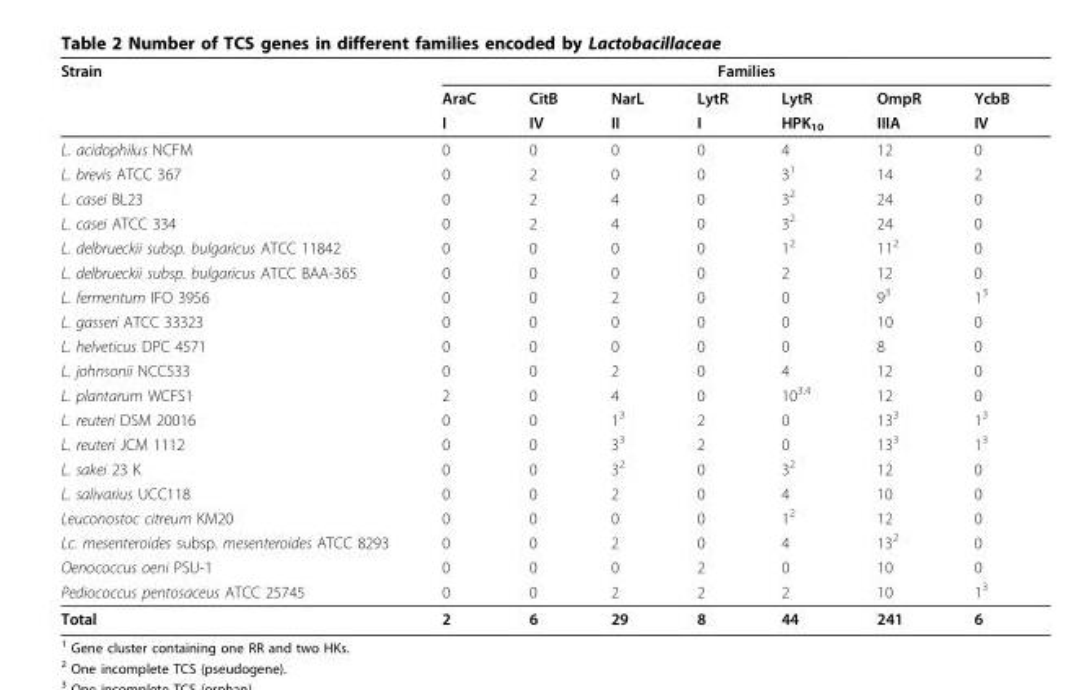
<table><thead><tr><td rowspan="3">Strain</td><td colspan="7">Families</td></tr><tr><td rowspan="2">AraC I</td><td rowspan="2">CitB IV</td><td rowspan="2">NarL II</td><td rowspan="2">LytR I</td><td rowspan="2">LytR HPK<sub>10</sub></td><td rowspan="2">OmpR IIIA</td><td rowspan="2">YcbB IV</td></tr><tr></tr></thead><tbody><tr><td>L. acidophilus NCFM</td><td>0</td><td>0</td><td>0</td><td>0</td><td>4</td><td>12</td><td>0</td></tr><tr><td>L. brevis ATCC 367</td><td>0</td><td>2</td><td>0</td><td>0</td><td>3<sup>1</sup></td><td>14</td><td>2</td></tr><tr><td>L. casei BL23</td><td>0</td><td>2</td><td>4</td><td>0</td><td>3<sup>2</sup></td><td>24</td><td>0</td></tr><tr><td>L. casei ATCC 334</td><td>0</td><td>2</td><td>4</td><td>0</td><td>3<sup>2</sup></td><td>24</td><td>0</td></tr><tr><td>L. delbrueckii subsp. bulgaricus ATCC 11842</td><td>0</td><td>0</td><td>0</td><td>0</td><td>1<sup>2</sup></td><td>11<sup>2</sup></td><td>0</td></tr><tr><td>L. delbrueckii subsp. bulgaricus ATCC BAA-365</td><td>0</td><td>0</td><td>0</td><td>0</td><td>2</td><td>12</td><td>0</td></tr><tr><td>L. fermentum IFO 3956</td><td>0</td><td>0</td><td>2</td><td>0</td><td>0</td><td>9<sup>3</sup></td><td>1<sup>3</sup></td></tr><tr><td>L. gasseri ATCC 33323</td><td>0</td><td>0</td><td>0</td><td>0</td><td>0</td><td>10</td><td>0</td></tr><tr><td>L. helveticus DPC 4571</td><td>0</td><td>0</td><td>0</td><td>0</td><td>0</td><td>8</td><td>0</td></tr><tr><td>L. johnsonii NCC533</td><td>0</td><td>0</td><td>2</td><td>0</td><td>4</td><td>12</td><td>0</td></tr><tr><td>L. plantarum WCFS1</td><td>2</td><td>0</td><td>4</td><td>0</td><td>10<sup>3,4</sup></td><td>12</td><td>0</td></tr><tr><td>L. reuteri DSM 20016</td><td>0</td><td>0</td><td>1<sup>3</sup></td><td>2</td><td>0</td><td>13<sup>3</sup></td><td>1<sup>3</sup></td></tr><tr><td>L. reuteri JCM 1112</td><td>0</td><td>0</td><td>3<sup>3</sup></td><td>2</td><td>0</td><td>13<sup>3</sup></td><td>1<sup>3</sup></td></tr><tr><td>L. sakei 23 K</td><td>0</td><td>0</td><td>3<sup>2</sup></td><td>0</td><td>3<sup>2</sup></td><td>12</td><td>0</td></tr><tr><td>L. salivarius UCC118</td><td>0</td><td>0</td><td>2</td><td>0</td><td>4</td><td>10</td><td>0</td></tr><tr><td>Leuconostoc citreum KM20</td><td>0</td><td>0</td><td>0</td><td>0</td><td>1<sup>2</sup></td><td>12</td><td>0</td></tr><tr><td>Lc. mesenteroides subsp. mesenteroides ATCC 8293</td><td>0</td><td>0</td><td>2</td><td>0</td><td>4</td><td>13<sup>2</sup></td><td>0</td></tr><tr><td>Oenococcus oeni PSU-1</td><td>0</td><td>0</td><td>0</td><td>2</td><td>0</td><td>10</td><td>0</td></tr><tr><td>Pediococcus pentosaceus ATCC 25745</td><td>0</td><td>0</td><td>2</td><td>2</td><td>2</td><td>10</td><td>1<sup>3</sup></td></tr><tr><td>Total</td><td>2</td><td>6</td><td>29</td><td>8</td><td>44</td><td>241</td><td>6</td></tr></tbody></table>